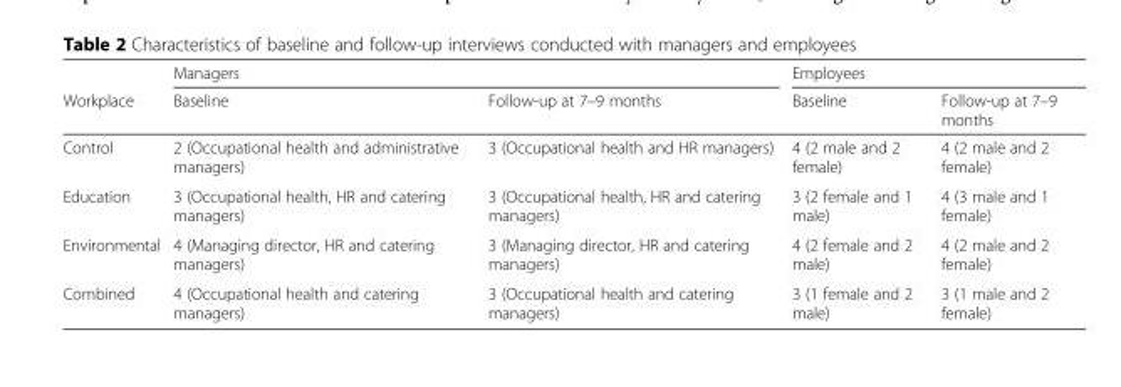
<table><thead><tr><td rowspan="2">Workplace</td><td colspan="2">Managers</td><td colspan="2">Employees</td></tr><tr><td>Baseline</td><td>Follow-up at 7–9 months</td><td>Baseline</td><td>Follow-up at 7–9 months</td></tr></thead><tbody><tr><td>Control</td><td>2 (Occupational health and administrative managers)</td><td>3 (Occupational health and HR managers)</td><td>4 (2 male and 2 female)</td><td>4 (2 male and 2 female)</td></tr><tr><td>Education</td><td>3 (Occupational health, HR and catering managers)</td><td>3 (Occupational health, HR and catering managers)</td><td>3 (2 female and 1 male)</td><td>4 (3 male and 1 female)</td></tr><tr><td>Environmental</td><td>4 (Managing director, HR and catering managers)</td><td>3 (Managing director, HR and catering managers)</td><td>4 (2 female and 2 male)</td><td>4 (2 male and 2 female)</td></tr><tr><td>Combined</td><td>4 (Occupational health and catering managers)</td><td>3 (Occupational health and catering managers)</td><td>3 (1 female and 2 male)</td><td>3 (1 male and 2 female)</td></tr></tbody></table>